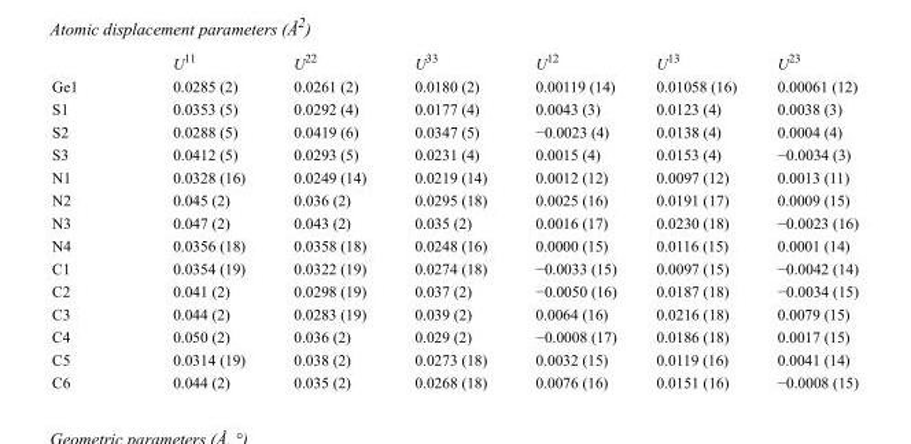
<table><thead><tr><td></td><td>U<sup>11</sup></td><td>U<sup>22</sup></td><td>U<sup>33</sup></td><td>U<sup>12</sup></td><td>U<sup>13</sup></td><td>U<sup>23</sup></td></tr></thead><tbody><tr><td>Ge1</td><td>0.0285 (2)</td><td>0.0261 (2)</td><td>0.0180 (2)</td><td>0.00119 (14)</td><td>0.01058 (16)</td><td>0.00061 (12)</td></tr><tr><td>S1</td><td>0.0353 (5)</td><td>0.0292 (4)</td><td>0.0177 (4)</td><td>0.0043 (3)</td><td>0.0123 (4)</td><td>0.0038 (3)</td></tr><tr><td>S2</td><td>0.0288 (5)</td><td>0.0419 (6)</td><td>0.0347 (5)</td><td>−0.0023 (4)</td><td>0.0138 (4)</td><td>0.0004 (4)</td></tr><tr><td>S3</td><td>0.0412 (5)</td><td>0.0293 (5)</td><td>0.0231 (4)</td><td>0.0015 (4)</td><td>0.0153 (4)</td><td>−0.0034 (3)</td></tr><tr><td>N1</td><td>0.0328 (16)</td><td>0.0249 (14)</td><td>0.0219 (14)</td><td>0.0012 (12)</td><td>0.0097 (12)</td><td>0.0013 (11)</td></tr><tr><td>N2</td><td>0.045 (2)</td><td>0.036 (2)</td><td>0.0295 (18)</td><td>0.0025 (16)</td><td>0.0191 (17)</td><td>0.0009 (15)</td></tr><tr><td>N3</td><td>0.047 (2)</td><td>0.043 (2)</td><td>0.035 (2)</td><td>0.0016 (17)</td><td>0.0230 (18)</td><td>−0.0023 (16)</td></tr><tr><td>N4</td><td>0.0356 (18)</td><td>0.0358 (18)</td><td>0.0248 (16)</td><td>0.0000 (15)</td><td>0.0116 (15)</td><td>0.0001 (14)</td></tr><tr><td>C1</td><td>0.0354 (19)</td><td>0.0322 (19)</td><td>0.0274 (18)</td><td>−0.0033 (15)</td><td>0.0097 (15)</td><td>−0.0042 (14)</td></tr><tr><td>C2</td><td>0.041 (2)</td><td>0.0298 (19)</td><td>0.037 (2)</td><td>−0.0050 (16)</td><td>0.0187 (18)</td><td>−0.0034 (15)</td></tr><tr><td>C3</td><td>0.044 (2)</td><td>0.0283 (19)</td><td>0.039 (2)</td><td>0.0064 (16)</td><td>0.0216 (18)</td><td>0.0079 (15)</td></tr><tr><td>C4</td><td>0.050 (2)</td><td>0.036 (2)</td><td>0.029 (2)</td><td>−0.0008 (17)</td><td>0.0186 (18)</td><td>0.0017 (15)</td></tr><tr><td>C5</td><td>0.0314 (19)</td><td>0.038 (2)</td><td>0.0273 (18)</td><td>0.0032 (15)</td><td>0.0119 (16)</td><td>0.0041 (14)</td></tr><tr><td>C6</td><td>0.044 (2)</td><td>0.035 (2)</td><td>0.0268 (18)</td><td>0.0076 (16)</td><td>0.0151 (16)</td><td>−0.0008 (15)</td></tr></tbody></table>